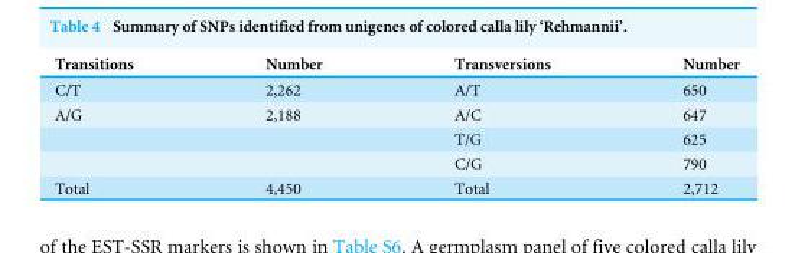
<table><thead><tr><td>Transitions</td><td>Number</td><td>Transversions</td><td>Number</td></tr></thead><tbody><tr><td>C/T</td><td>2,262</td><td>A/T</td><td>650</td></tr><tr><td rowspan="3">A/G</td><td>2,188</td><td>A/C</td><td>647</td></tr><tr><td></td><td>T/G</td><td>625</td></tr><tr><td></td><td>C/G</td><td>790</td></tr><tr><td>Total</td><td>4,450</td><td>Total</td><td>2,712</td></tr></tbody></table>